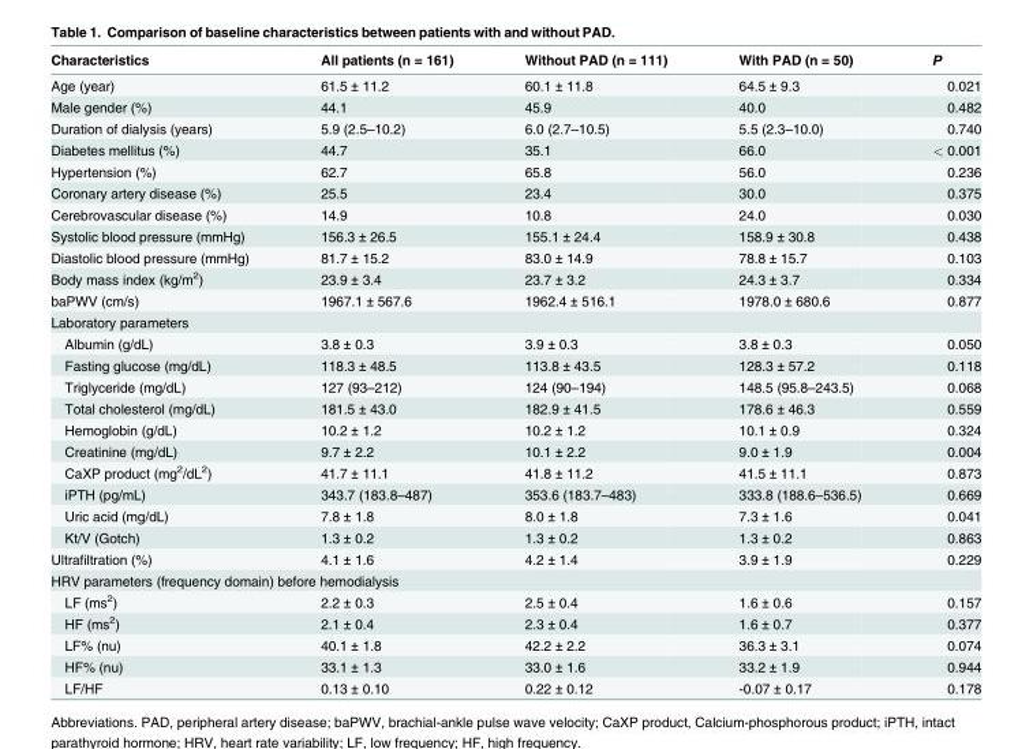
<table><thead><tr><td>Characteristics</td><td>All patients (n = 161)</td><td>Without PAD (n = 111)</td><td>With PAD (n = 50)</td><td>P</td></tr></thead><tbody><tr><td>Age (year)</td><td>61.5 ± 11.2</td><td>60.1 ± 11.8</td><td>64.5 ± 9.3</td><td>0.021</td></tr><tr><td>Male gender (%)</td><td>44.1</td><td>45.9</td><td>40.0</td><td>0.482</td></tr><tr><td>Duration of dialysis (years)</td><td>5.9 (2.5–10.2)</td><td>6.0 (2.7–10.5)</td><td>5.5 (2.3–10.0)</td><td>0.740</td></tr><tr><td>Diabetes mellitus (%)</td><td>44.7</td><td>35.1</td><td>66.0</td><td>&lt; 0.001</td></tr><tr><td>Hypertension (%)</td><td>62.7</td><td>65.8</td><td>56.0</td><td>0.236</td></tr><tr><td>Coronary artery disease (%)</td><td>25.5</td><td>23.4</td><td>30.0</td><td>0.375</td></tr><tr><td>Cerebrovascular disease (%)</td><td>14.9</td><td>10.8</td><td>24.0</td><td>0.030</td></tr><tr><td>Systolic blood pressure (mmHg)</td><td>156.3 ± 26.5</td><td>155.1 ± 24.4</td><td>158.9 ± 30.8</td><td>0.438</td></tr><tr><td>Diastolic blood pressure (mmHg)</td><td>81.7 ± 15.2</td><td>83.0 ± 14.9</td><td>78.8 ± 15.7</td><td>0.103</td></tr><tr><td>Body mass index (kg/m<sup>2</sup>)</td><td>23.9 ± 3.4</td><td>23.7 ± 3.2</td><td>24.3 ± 3.7</td><td>0.334</td></tr><tr><td>baPWV (cm/s)</td><td>1967.1 ± 567.6</td><td>1962.4 ± 516.1</td><td>1978.0 ± 680.6</td><td>0.877</td></tr><tr><td colspan="5">Laboratory parameters</td></tr><tr><td>Albumin (g/dL)</td><td>3.8 ± 0.3</td><td>3.9 ± 0.3</td><td>3.8 ± 0.3</td><td>0.050</td></tr><tr><td>Fasting glucose (mg/dL)</td><td>118.3 ± 48.5</td><td>113.8 ± 43.5</td><td>128.3 ± 57.2</td><td>0.118</td></tr><tr><td>Triglyceride (mg/dL)</td><td>127 (93–212)</td><td>124 (90–194)</td><td>148.5 (95.8–243.5)</td><td>0.068</td></tr><tr><td>Total cholesterol (mg/dL)</td><td>181.5 ± 43.0</td><td>182.9 ± 41.5</td><td>178.6 ± 46.3</td><td>0.559</td></tr><tr><td>Hemoglobin (g/dL)</td><td>10.2 ± 1.2</td><td>10.2 ± 1.2</td><td>10.1 ± 0.9</td><td>0.324</td></tr><tr><td>Creatinine (mg/dL)</td><td>9.7 ± 2.2</td><td>10.1 ± 2.2</td><td>9.0 ± 1.9</td><td>0.004</td></tr><tr><td>CaXP product (mg<sup>2</sup>/dL<sup>2</sup>)</td><td>41.7 ± 11.1</td><td>41.8 ± 11.2</td><td>41.5 ± 11.1</td><td>0.873</td></tr><tr><td>iPTH (pg/mL)</td><td>343.7 (183.8–487)</td><td>353.6 (183.7–483)</td><td>333.8 (188.6–536.5)</td><td>0.669</td></tr><tr><td>Uric acid (mg/dL)</td><td>7.8 ± 1.8</td><td>8.0 ± 1.8</td><td>7.3 ± 1.6</td><td>0.041</td></tr><tr><td>Kt/V (Gotch)</td><td>1.3 ± 0.2</td><td>1.3 ± 0.2</td><td>1.3 ± 0.2</td><td>0.863</td></tr><tr><td>Ultrafiltration (%)</td><td>4.1 ± 1.6</td><td>4.2 ± 1.4</td><td>3.9 ± 1.9</td><td>0.229</td></tr><tr><td colspan="5">HRV parameters (frequency domain) before hemodialysis</td></tr><tr><td>LF (ms<sup>2</sup>)</td><td>2.2 ± 0.3</td><td>2.5 ± 0.4</td><td>1.6 ± 0.6</td><td>0.157</td></tr><tr><td>HF (ms<sup>2</sup>)</td><td>2.1 ± 0.4</td><td>2.3 ± 0.4</td><td>1.6 ± 0.7</td><td>0.377</td></tr><tr><td>LF% (nu)</td><td>40.1 ± 1.8</td><td>42.2 ± 2.2</td><td>36.3 ± 3.1</td><td>0.074</td></tr><tr><td>HF% (nu)</td><td>33.1 ± 1.3</td><td>33.0 ± 1.6</td><td>33.2 ± 1.9</td><td>0.944</td></tr><tr><td>LF/HF</td><td>0.13 ± 0.10</td><td>0.22 ± 0.12</td><td>-0.07 ± 0.17</td><td>0.178</td></tr></tbody></table>